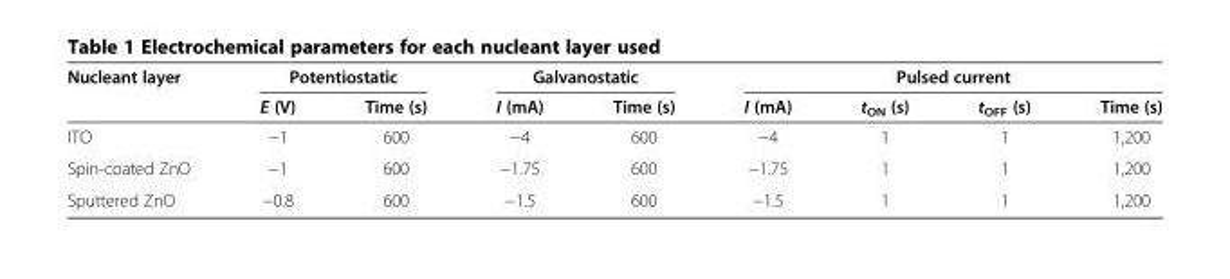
<table><thead><tr><td rowspan="2">Nucleant layer</td><td colspan="2">Potentiostatic</td><td colspan="2">Galvanostatic</td><td colspan="4">Pulsed current</td></tr><tr><td>E (V)</td><td>Time (s)</td><td>I (mA)</td><td>Time (s)</td><td>I (mA)</td><td>t<sub>ON</sub> (s)</td><td>t<sub>OFF</sub> (s)</td><td>Time (s)</td></tr></thead><tbody><tr><td>ITO</td><td>−1</td><td>600</td><td>−4</td><td>600</td><td>−4</td><td>1</td><td>1</td><td>1,200</td></tr><tr><td>Spin-coated ZnO</td><td>−1</td><td>600</td><td>−1.75</td><td>600</td><td>−1.75</td><td>1</td><td>1</td><td>1,200</td></tr><tr><td>Sputtered ZnO</td><td>−0.8</td><td>600</td><td>−1.5</td><td>600</td><td>−1.5</td><td>1</td><td>1</td><td>1,200</td></tr></tbody></table>